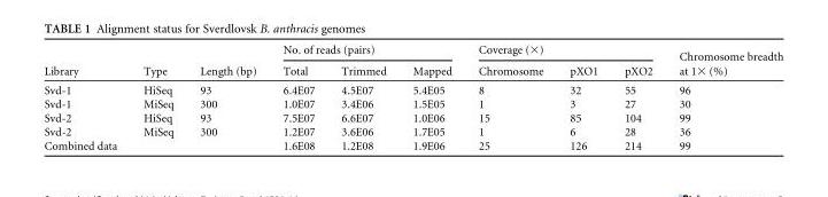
<table><thead><tr><td rowspan="2">Library</td><td rowspan="2">Type</td><td rowspan="2">Length (bp)</td><td colspan="3">No. of reads (pairs)</td><td colspan="3">Coverage (×)</td><td rowspan="2">Chromosome breadth at 1× (%)</td></tr><tr><td>Total</td><td>Trimmed</td><td>Mapped</td><td>Chromosome</td><td>pXO1</td><td>pXO2</td></tr></thead><tbody><tr><td>Svd-1</td><td>HiSeq</td><td>93</td><td>6.4E07</td><td>4.5E07</td><td>5.4E05</td><td>8</td><td>32</td><td>55</td><td>96</td></tr><tr><td>Svd-1</td><td>MiSeq</td><td>300</td><td>1.0E07</td><td>3.4E06</td><td>1.5E05</td><td>1</td><td>3</td><td>27</td><td>30</td></tr><tr><td>Svd-2</td><td>HiSeq</td><td>93</td><td>7.5E07</td><td>6.6E07</td><td>1.0E06</td><td>15</td><td>85</td><td>104</td><td>99</td></tr><tr><td>Svd-2</td><td>MiSeq</td><td>300</td><td>1.2E07</td><td>3.6E06</td><td>1.7E05</td><td>1</td><td>6</td><td>28</td><td>36</td></tr><tr><td>Combined data</td><td></td><td></td><td>1.6E08</td><td>1.2E08</td><td>1.9E06</td><td>25</td><td>126</td><td>214</td><td>99</td></tr></tbody></table>